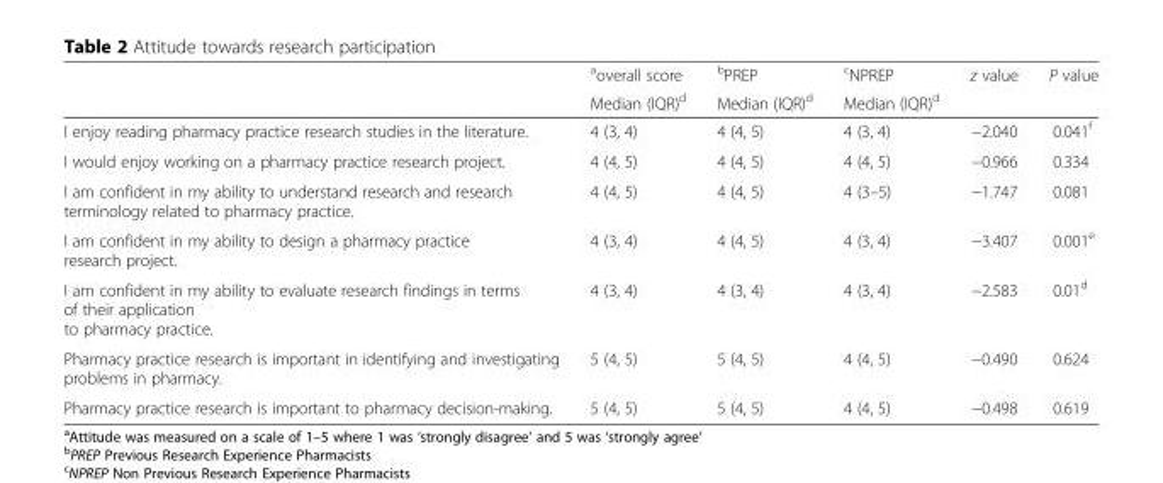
<table><thead><tr><td rowspan="2"></td><td rowspan="2"><sup>a</sup>overall score Median (IQR)<sup>d</sup></td><td rowspan="2"><sup>b</sup>PREP Median (IQR)<sup>d</sup></td><td rowspan="2"><sup>c</sup>NPREP Median (IQR)<sup>d</sup></td><td rowspan="2">z value</td><td rowspan="2">P value</td></tr><tr></tr></thead><tbody><tr><td>I enjoy reading pharmacy practice research studies in the literature.</td><td>4 (3, 4)</td><td>4 (4, 5)</td><td>4 (3, 4)</td><td>−2.040</td><td>0.041<sup>f</sup></td></tr><tr><td>I would enjoy working on a pharmacy practice research project.</td><td>4 (4, 5)</td><td>4 (4, 5)</td><td>4 (4, 5)</td><td>−0.966</td><td>0.334</td></tr><tr><td>I am confident in my ability to understand research and research terminology related to pharmacy practice.</td><td>4 (4, 5)</td><td>4 (4, 5)</td><td>4 (3–5)</td><td>−1.747</td><td>0.081</td></tr><tr><td>I am confident in my ability to design a pharmacy practice research project.</td><td>4 (3, 4)</td><td>4 (4, 5)</td><td>4 (3, 4)</td><td>−3.407</td><td>0.001<sup>e</sup></td></tr><tr><td>I am confident in my ability to evaluate research findings in terms of their application to pharmacy practice.</td><td>4 (3, 4)</td><td>4 (3, 4)</td><td>4 (3, 4)</td><td>−2.583</td><td>0.01<sup>d</sup></td></tr><tr><td>Pharmacy practice research is important in identifying and investigating problems in pharmacy.</td><td>5 (4, 5)</td><td>5 (4, 5)</td><td>4 (4, 5)</td><td>−0.490</td><td>0.624</td></tr><tr><td>Pharmacy practice research is important to pharmacy decision-making.</td><td>5 (4, 5)</td><td>5 (4, 5)</td><td>4 (4, 5)</td><td>−0.498</td><td>0.619</td></tr></tbody></table>